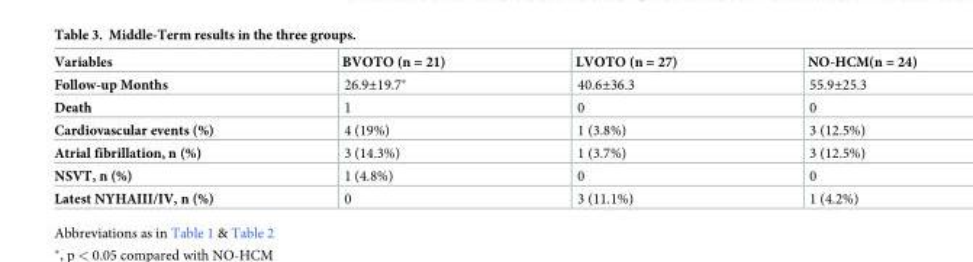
<table><thead><tr><td>Variables</td><td>BVOTO (n = 21)</td><td>LVOTO (n = 27)</td><td>NO-HCM(n = 24)</td></tr></thead><tbody><tr><td>Follow-up Months</td><td>26.9±19.7*</td><td>40.6±36.3</td><td>55.9±25.3</td></tr><tr><td>Death</td><td>1</td><td>0</td><td>0</td></tr><tr><td>Cardiovascular events (%)</td><td>4 (19%)</td><td>1 (3.8%)</td><td>3 (12.5%)</td></tr><tr><td>Atrial fibrillation, n (%)</td><td>3 (14.3%)</td><td>1 (3.7%)</td><td>3 (12.5%)</td></tr><tr><td>NSVT, n (%)</td><td>1 (4.8%)</td><td>0</td><td>0</td></tr><tr><td>Latest NYHAIII/IV, n (%)</td><td>0</td><td>3 (11.1%)</td><td>1 (4.2%)</td></tr></tbody></table>